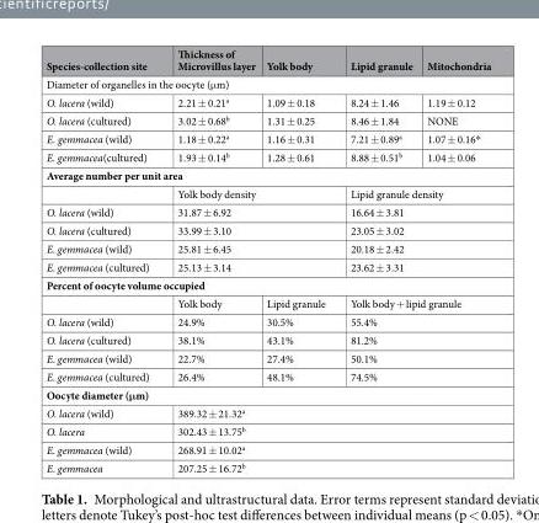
<table><thead><tr><td>Species-collection site</td><td>Thickness of Microvillus layer</td><td>Yolk body</td><td>Lipid granule</td><td>Mitochondria</td></tr></thead><tbody><tr><td colspan="5">Diameter of organelles in the oocyte (μm)</td></tr><tr><td>O. lacera (wild)</td><td>2.21 ± 0.21<sup>a</sup></td><td>1.09 ± 0.18</td><td>8.24 ± 1.46</td><td>1.19 ± 0.12</td></tr><tr><td>O. lacera (cultured)</td><td>3.02 ± 0.68<sup>b</sup></td><td>1.31 ± 0.25</td><td>8.46 ± 1.84</td><td>NONE</td></tr><tr><td>E. gemmacea (wild)</td><td>1.18 ± 0.22<sup>a</sup></td><td>1.16 ± 0.31</td><td>7.21 ± 0.89<sup>a</sup></td><td>1.07 ± 0.16*</td></tr><tr><td>E. gemmacea(cultured)</td><td>1.93 ± 0.14<sup>b</sup></td><td>1.28 ± 0.61</td><td>8.88 ± 0.51<sup>b</sup></td><td>1.04 ± 0.06</td></tr><tr><td colspan="5">Average number per unit area</td></tr><tr><td></td><td colspan="2">Yolk body density</td><td colspan="2">Lipid granule density</td></tr><tr><td>O. lacera (wild)</td><td colspan="2">31.87 ± 6.92</td><td colspan="2">16.64 ± 3.81</td></tr><tr><td>O. lacera (cultured)</td><td colspan="2">33.99 ± 3.10</td><td colspan="2">23.05 ± 3.02</td></tr><tr><td>E. gemmacea (wild)</td><td colspan="2">25.81 ± 6.45</td><td colspan="2">20.18 ± 2.42</td></tr><tr><td>E. gemmacea (cultured)</td><td colspan="2">25.13 ± 3.14</td><td colspan="2">23.62 ± 3.31</td></tr><tr><td colspan="5">Percent of oocyte volume occupied</td></tr><tr><td></td><td>Yolk body</td><td>Lipid granule</td><td colspan="2">Yolk body + lipid granule</td></tr><tr><td>O. lacera (wild)</td><td>24.9%</td><td>30.5%</td><td colspan="2">55.4%</td></tr><tr><td>O. lacera (cultured)</td><td>38.1%</td><td>43.1%</td><td colspan="2">81.2%</td></tr><tr><td>E. gemmacea (wild)</td><td>22.7%</td><td>27.4%</td><td colspan="2">50.1%</td></tr><tr><td>E. gemmacea (cultured)</td><td>26.4%</td><td>48.1%</td><td colspan="2">74.5%</td></tr><tr><td colspan="5">Oocyte diameter (μm)</td></tr><tr><td>O. lacera (wild)</td><td colspan="4">389.32 ± 21.32<sup>a</sup></td></tr><tr><td>O. lacera</td><td colspan="4">302.43 ± 13.75<sup>b</sup></td></tr><tr><td>E. gemmacea (wild)</td><td colspan="4">268.91 ± 10.02<sup>a</sup></td></tr><tr><td>E. gemmacea</td><td colspan="4">207.25 ± 16.72<sup>b</sup></td></tr></tbody></table>